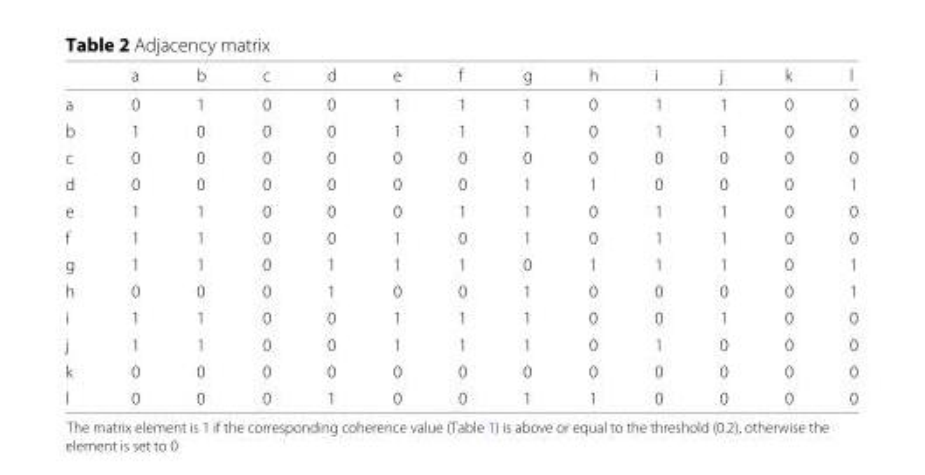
<table><thead><tr><td></td><td>a</td><td>b</td><td>c</td><td>d</td><td>e</td><td>f</td><td>g</td><td>h</td><td>i</td><td>j</td><td>k</td><td>l</td></tr></thead><tbody><tr><td>a</td><td>0</td><td>1</td><td>0</td><td>0</td><td>1</td><td>1</td><td>1</td><td>0</td><td>1</td><td>1</td><td>0</td><td>0</td></tr><tr><td>b</td><td>1</td><td>0</td><td>0</td><td>0</td><td>1</td><td>1</td><td>1</td><td>0</td><td>1</td><td>1</td><td>0</td><td>0</td></tr><tr><td>c</td><td>0</td><td>0</td><td>0</td><td>0</td><td>0</td><td>0</td><td>0</td><td>0</td><td>0</td><td>0</td><td>0</td><td>0</td></tr><tr><td>d</td><td>0</td><td>0</td><td>0</td><td>0</td><td>0</td><td>0</td><td>1</td><td>1</td><td>0</td><td>0</td><td>0</td><td>1</td></tr><tr><td>e</td><td>1</td><td>1</td><td>0</td><td>0</td><td>0</td><td>1</td><td>1</td><td>0</td><td>1</td><td>1</td><td>0</td><td>0</td></tr><tr><td>f</td><td>1</td><td>1</td><td>0</td><td>0</td><td>1</td><td>0</td><td>1</td><td>0</td><td>1</td><td>1</td><td>0</td><td>0</td></tr><tr><td>g</td><td>1</td><td>1</td><td>0</td><td>1</td><td>1</td><td>1</td><td>0</td><td>1</td><td>1</td><td>1</td><td>0</td><td>1</td></tr><tr><td>h</td><td>0</td><td>0</td><td>0</td><td>1</td><td>0</td><td>0</td><td>1</td><td>0</td><td>0</td><td>0</td><td>0</td><td>1</td></tr><tr><td>i</td><td>1</td><td>1</td><td>0</td><td>0</td><td>1</td><td>1</td><td>1</td><td>0</td><td>0</td><td>1</td><td>0</td><td>0</td></tr><tr><td>j</td><td>1</td><td>1</td><td>0</td><td>0</td><td>1</td><td>1</td><td>1</td><td>0</td><td>1</td><td>0</td><td>0</td><td>0</td></tr><tr><td>k</td><td>0</td><td>0</td><td>0</td><td>0</td><td>0</td><td>0</td><td>0</td><td>0</td><td>0</td><td>0</td><td>0</td><td>0</td></tr><tr><td>l</td><td>0</td><td>0</td><td>0</td><td>1</td><td>0</td><td>0</td><td>1</td><td>1</td><td>0</td><td>0</td><td>0</td><td>0</td></tr></tbody></table>